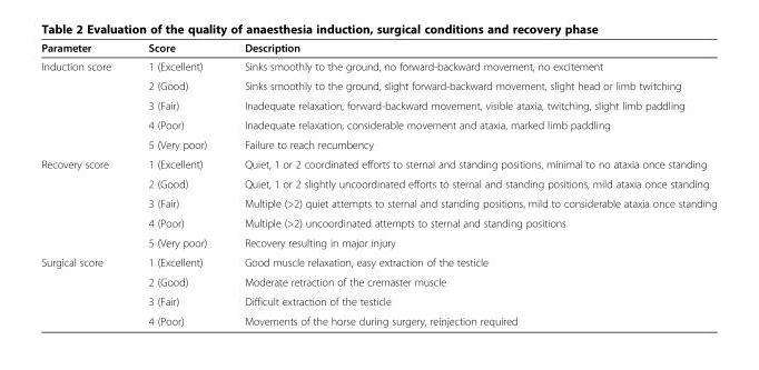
<table><thead><tr><td>Parameter</td><td>Score</td><td>Description</td></tr></thead><tbody><tr><td rowspan="5">Induction score</td><td>1 (Excellent)</td><td>Sinks smoothly to the ground, no forward-backward movement, no excitement</td></tr><tr><td>2 (Good)</td><td>Sinks smoothly to the ground, slight forward-backward movement, slight head or limb twitching</td></tr><tr><td>3 (Fair)</td><td>Inadequate relaxation, forward-backward movement, visible ataxia, twitching, slight limb paddling</td></tr><tr><td>4 (Poor)</td><td>Inadequate relaxation, considerable movement and ataxia, marked limb paddling</td></tr><tr><td>5 (Very poor)</td><td>Failure to reach recumbency</td></tr><tr><td rowspan="5">Recovery score</td><td>1 (Excellent)</td><td>Quiet, 1 or 2 coordinated efforts to sternal and standing positions, minimal to no ataxia once standing</td></tr><tr><td>2 (Good)</td><td>Quiet, 1 or 2 slightly uncoordinated efforts to sternal and standing positions, mild ataxia once standing</td></tr><tr><td>3 (Fair)</td><td>Multiple (&gt;2) quiet attempts to sternal and standing positions, mild to considerable ataxia once standing</td></tr><tr><td>4 (Poor)</td><td>Multiple (&gt;2) uncoordinated attempts to sternal and standing positions</td></tr><tr><td>5 (Very poor)</td><td>Recovery resulting in major injury</td></tr><tr><td rowspan="4">Surgical score</td><td>1 (Excellent)</td><td>Good muscle relaxation, easy extraction of the testicle</td></tr><tr><td>2 (Good)</td><td>Moderate retraction of the cremaster muscle</td></tr><tr><td>3 (Fair)</td><td>Difficult extraction of the testicle</td></tr><tr><td>4 (Poor)</td><td>Movements of the horse during surgery, reinjection required</td></tr></tbody></table>